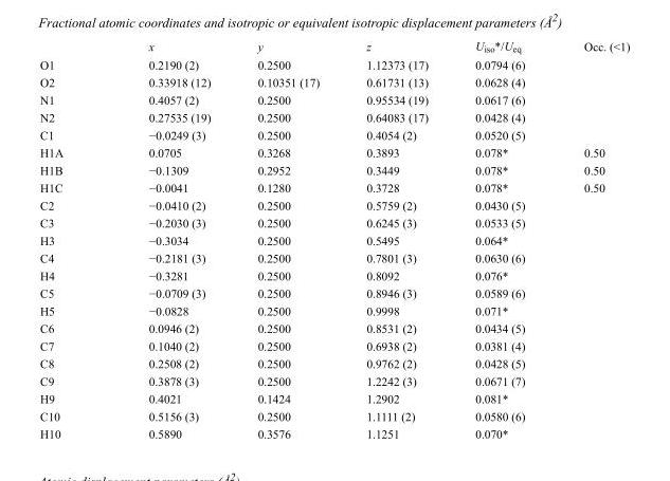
<table><thead><tr><td></td><td>x</td><td>y</td><td>z</td><td>U<sub>iso</sub>*/U<sub>eq</sub></td><td>Occ. (&lt;1)</td></tr></thead><tbody><tr><td>O1</td><td>0.2190 (2)</td><td>0.2500</td><td>1.12373 (17)</td><td>0.0794 (6)</td><td></td></tr><tr><td>O2</td><td>0.33918 (12)</td><td>0.10351 (17)</td><td>0.61731 (13)</td><td>0.0628 (4)</td><td></td></tr><tr><td>N1</td><td>0.4057 (2)</td><td>0.2500</td><td>0.95534 (19)</td><td>0.0617 (6)</td><td></td></tr><tr><td>N2</td><td>0.27535 (19)</td><td>0.2500</td><td>0.64083 (17)</td><td>0.0428 (4)</td><td></td></tr><tr><td>C1</td><td>−0.0249 (3)</td><td>0.2500</td><td>0.4054 (2)</td><td>0.0520 (5)</td><td></td></tr><tr><td>H1A</td><td>0.0705</td><td>0.3268</td><td>0.3893</td><td>0.078*</td><td>0.50</td></tr><tr><td>H1B</td><td>−0.1309</td><td>0.2952</td><td>0.3449</td><td>0.078*</td><td>0.50</td></tr><tr><td>H1C</td><td>−0.0041</td><td>0.1280</td><td>0.3728</td><td>0.078*</td><td>0.50</td></tr><tr><td>C2</td><td>−0.0410 (2)</td><td>0.2500</td><td>0.5759 (2)</td><td>0.0430 (5)</td><td></td></tr><tr><td>C3</td><td>−0.2030 (3)</td><td>0.2500</td><td>0.6245 (3)</td><td>0.0533 (5)</td><td></td></tr><tr><td>H3</td><td>−0.3034</td><td>0.2500</td><td>0.5495</td><td>0.064*</td><td></td></tr><tr><td>C4</td><td>−0.2181 (3)</td><td>0.2500</td><td>0.7801 (3)</td><td>0.0630 (6)</td><td></td></tr><tr><td>H4</td><td>−0.3281</td><td>0.2500</td><td>0.8092</td><td>0.076*</td><td></td></tr><tr><td>C5</td><td>−0.0709 (3)</td><td>0.2500</td><td>0.8946 (3)</td><td>0.0589 (6)</td><td></td></tr><tr><td>H5</td><td>−0.0828</td><td>0.2500</td><td>0.9998</td><td>0.071*</td><td></td></tr><tr><td>C6</td><td>0.0946 (2)</td><td>0.2500</td><td>0.8531 (2)</td><td>0.0434 (5)</td><td></td></tr><tr><td>C7</td><td>0.1040 (2)</td><td>0.2500</td><td>0.6938 (2)</td><td>0.0381 (4)</td><td></td></tr><tr><td>C8</td><td>0.2508 (2)</td><td>0.2500</td><td>0.9762 (2)</td><td>0.0428 (5)</td><td></td></tr><tr><td>C9</td><td>0.3878 (3)</td><td>0.2500</td><td>1.2242 (3)</td><td>0.0671 (7)</td><td></td></tr><tr><td>H9</td><td>0.4021</td><td>0.1424</td><td>1.2902</td><td>0.081*</td><td></td></tr><tr><td>C10</td><td>0.5156 (3)</td><td>0.2500</td><td>1.1111 (2)</td><td>0.0580 (6)</td><td></td></tr><tr><td>H10</td><td>0.5890</td><td>0.3576</td><td>1.1251</td><td>0.070*</td><td></td></tr></tbody></table>